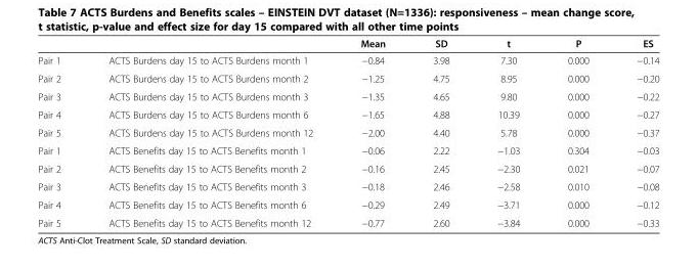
<table><thead><tr><td></td><td></td><td>Mean</td><td>SD</td><td>t</td><td>P</td><td>ES</td></tr></thead><tbody><tr><td>Pair 1</td><td>ACTS Burdens day 15 to ACTS Burdens month 1</td><td>−0.84</td><td>3.98</td><td>7.30</td><td>0.000</td><td>−0.14</td></tr><tr><td>Pair 2</td><td>ACTS Burdens day 15 to ACTS Burdens month 2</td><td>−1.25</td><td>4.75</td><td>8.95</td><td>0.000</td><td>−0.20</td></tr><tr><td>Pair 3</td><td>ACTS Burdens day 15 to ACTS Burdens month 3</td><td>−1.35</td><td>4.65</td><td>9.80</td><td>0.000</td><td>−0.22</td></tr><tr><td>Pair 4</td><td>ACTS Burdens day 15 to ACTS Burdens month 6</td><td>−1.65</td><td>4.88</td><td>10.39</td><td>0.000</td><td>−0.27</td></tr><tr><td>Pair 5</td><td>ACTS Burdens day 15 to ACTS Burdens month 12</td><td>−2.00</td><td>4.40</td><td>5.78</td><td>0.000</td><td>−0.37</td></tr><tr><td>Pair 1</td><td>ACTS Benefits day 15 to ACTS Benefits month 1</td><td>−0.06</td><td>2.22</td><td>−1.03</td><td>0.304</td><td>−0.03</td></tr><tr><td>Pair 2</td><td>ACTS Benefits day 15 to ACTS Benefits month 2</td><td>−0.16</td><td>2.45</td><td>−2.30</td><td>0.021</td><td>−0.07</td></tr><tr><td>Pair 3</td><td>ACTS Benefits day 15 to ACTS Benefits month 3</td><td>−0.18</td><td>2.46</td><td>−2.58</td><td>0.010</td><td>−0.08</td></tr><tr><td>Pair 4</td><td>ACTS Benefits day 15 to ACTS Benefits month 6</td><td>−0.29</td><td>2.49</td><td>−3.71</td><td>0.000</td><td>−0.12</td></tr><tr><td>Pair 5</td><td>ACTS Benefits day 15 to ACTS Benefits month 12</td><td>−0.77</td><td>2.60</td><td>−3.84</td><td>0.000</td><td>−0.33</td></tr></tbody></table>